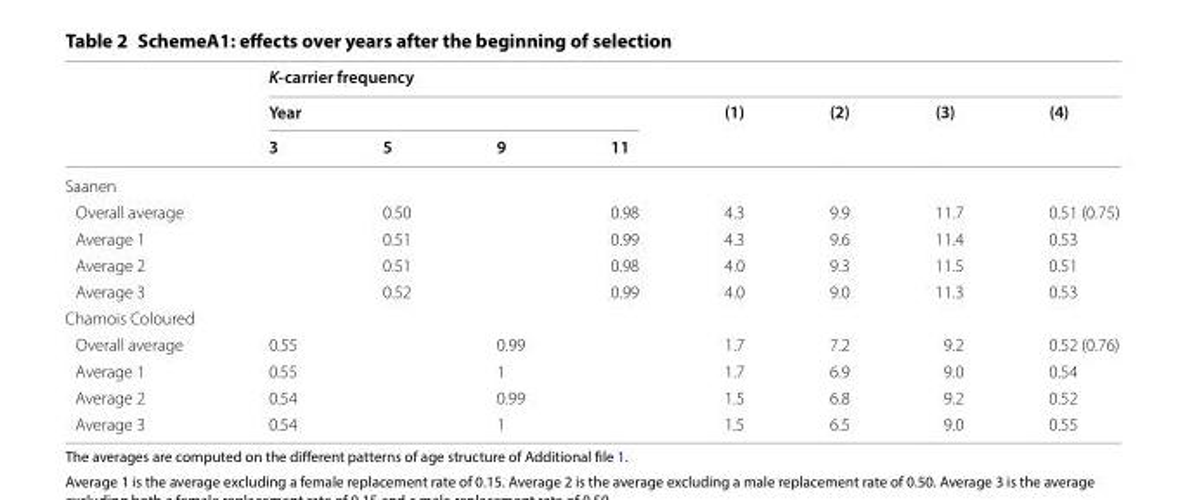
<table><thead><tr><td rowspan="3"></td><td colspan="8">K-carrier frequency</td></tr><tr><td colspan="4">Year</td><td rowspan="2">(1)</td><td rowspan="2">(2)</td><td rowspan="2">(3)</td><td rowspan="2">(4)</td></tr><tr><td>3</td><td>5</td><td>9</td><td>11</td></tr></thead><tbody><tr><td colspan="9">Saanen</td></tr><tr><td>Overall average</td><td></td><td>0.50</td><td></td><td>0.98</td><td>4.3</td><td>9.9</td><td>11.7</td><td>0.51 (0.75)</td></tr><tr><td>Average 1</td><td></td><td>0.51</td><td></td><td>0.99</td><td>4.3</td><td>9.6</td><td>11.4</td><td>0.53</td></tr><tr><td>Average 2</td><td></td><td>0.51</td><td></td><td>0.98</td><td>4.0</td><td>9.3</td><td>11.5</td><td>0.51</td></tr><tr><td>Average 3</td><td></td><td>0.52</td><td></td><td>0.99</td><td>4.0</td><td>9.0</td><td>11.3</td><td>0.53</td></tr><tr><td colspan="9">Chamois Coloured</td></tr><tr><td>Overall average</td><td>0.55</td><td></td><td>0.99</td><td></td><td>1.7</td><td>7.2</td><td>9.2</td><td>0.52 (0.76)</td></tr><tr><td>Average 1</td><td>0.55</td><td></td><td>1</td><td></td><td>1.7</td><td>6.9</td><td>9.0</td><td>0.54</td></tr><tr><td>Average 2</td><td>0.54</td><td></td><td>0.99</td><td></td><td>1.5</td><td>6.8</td><td>9.2</td><td>0.52</td></tr><tr><td>Average 3</td><td>0.54</td><td></td><td>1</td><td></td><td>1.5</td><td>6.5</td><td>9.0</td><td>0.55</td></tr></tbody></table>